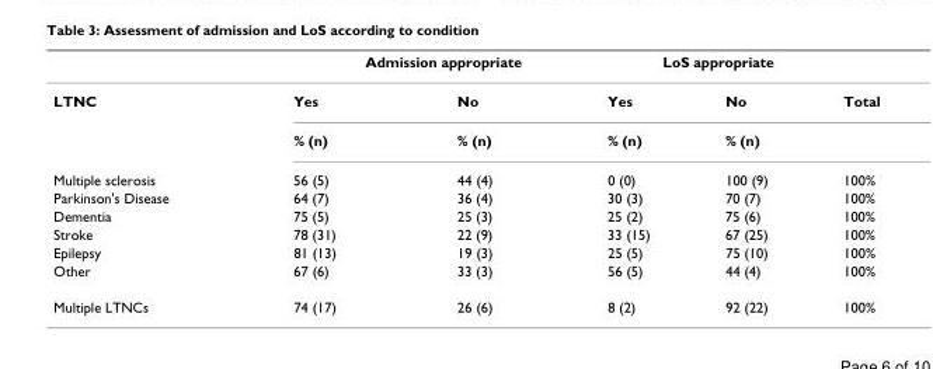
<table><thead><tr><td rowspan="2">LTNC</td><td colspan="2">Admission appropriate</td><td colspan="2">LoS appropriate</td><td rowspan="2">Total</td></tr><tr><td>Yes</td><td>No</td><td>Yes</td><td>No</td></tr></thead><tbody><tr><td></td><td>% (n)</td><td>% (n)</td><td>% (n)</td><td>% (n)</td><td></td></tr><tr><td>Multiple sclerosis</td><td>56 (5)</td><td>44 (4)</td><td>0 (0)</td><td>100 (9)</td><td>100%</td></tr><tr><td>Parkinson&#x27;s Disease</td><td>64 (7)</td><td>36 (4)</td><td>30 (3)</td><td>70 (7)</td><td>100%</td></tr><tr><td>Dementia</td><td>75 (5)</td><td>25 (3)</td><td>25 (2)</td><td>75 (6)</td><td>100%</td></tr><tr><td>Stroke</td><td>78 (31)</td><td>22 (9)</td><td>33 (15)</td><td>67 (25)</td><td>100%</td></tr><tr><td>Epilepsy</td><td>81 (13)</td><td>19 (3)</td><td>25 (5)</td><td>75 (10)</td><td>100%</td></tr><tr><td>Other</td><td>67 (6)</td><td>33 (3)</td><td>56 (5)</td><td>44 (4)</td><td>100%</td></tr><tr><td>Multiple LTNCs</td><td>74 (17)</td><td>26 (6)</td><td>8 (2)</td><td>92 (22)</td><td>100%</td></tr></tbody></table>